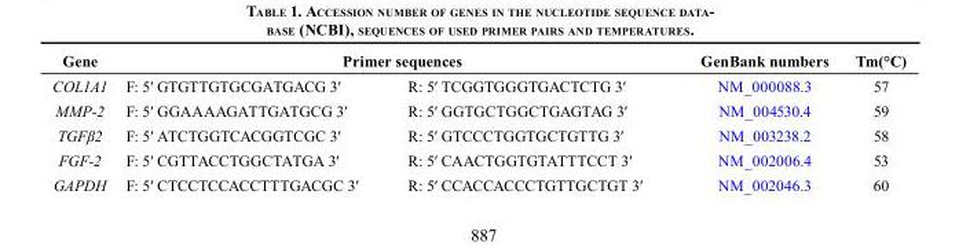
<table><thead><tr><td rowspan="2">Gene COL1A1</td><td colspan="2">Primer sequences</td><td rowspan="2">GenBank numbers NM_000088.3</td><td rowspan="2">Tm(°C) 57</td></tr><tr><td>F: 5′ GTGTTGTGCGATGACG 3′</td><td>R: 5′ TCGGTGGGTGACTCTG 3′</td></tr></thead><tbody><tr><td>MMP-2</td><td>F: 5′ GGAAAAGATTGATGCG 3′</td><td>R: 5′ GGTGCTGGCTGAGTAG 3′</td><td>NM_004530.4</td><td>59</td></tr><tr><td>TGFβ2</td><td>F: 5′ ATCTGGTCACGGTCGC 3′</td><td>R: 5′ GTCCCTGGTGCTGTTG 3′</td><td>NM_003238.2</td><td>58</td></tr><tr><td>FGF-2</td><td>F: 5′ CGTTACCTGGCTATGA 3′</td><td>R: 5′ CAACTGGTGTATTTCCT 3′</td><td>NM_002006.4</td><td>53</td></tr><tr><td>GAPDH</td><td>F: 5′ CTCCTCCACCTTTGACGC 3′</td><td>R: 5′ CCACCACCCTGTTGCTGT 3′</td><td>NM_002046.3</td><td>60</td></tr></tbody></table>